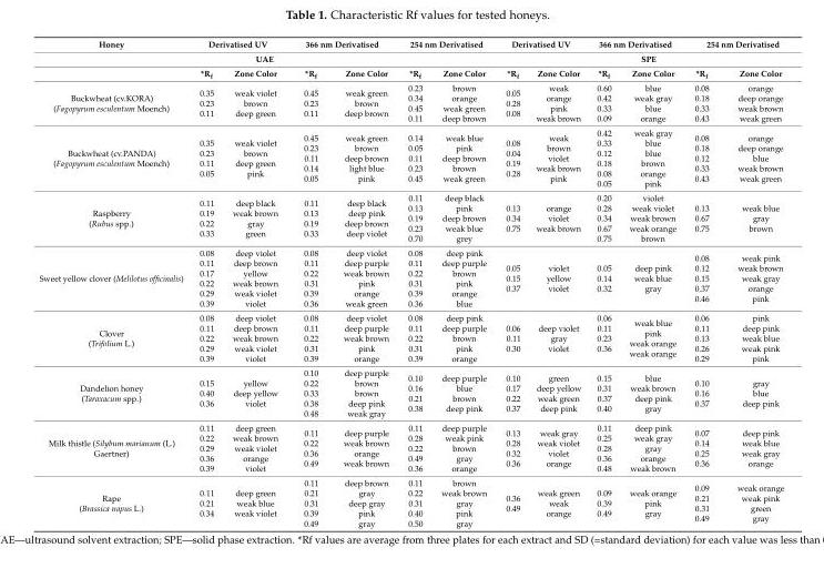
<table><thead><tr><td>Honey</td><td colspan="2">Derivatised UV</td><td colspan="2">366 nm Derivatised</td><td colspan="2">254 nm Derivatised</td><td colspan="2">Derivatised UV</td><td colspan="2">366 nm Derivatised</td><td colspan="2">254 nm Derivatised</td></tr><tr><td colspan="7">UAE</td><td colspan="6">SPE</td></tr><tr><td></td><td>*R<sub>f</sub></td><td>Zone Color</td><td>*R<sub>f</sub></td><td>Zone Color</td><td>*R<sub>f</sub></td><td>Zone Color</td><td>*R<sub>f</sub></td><td>Zone Color</td><td>*R<sub>f</sub></td><td>Zone Color</td><td>*R<sub>f</sub></td><td>Zone Color</td></tr></thead><tbody><tr><td>Buckwheat (cv.KORA) (Fagopyrum esculentum Moench)</td><td>0.35 0.23 0.11</td><td>weak violet brown deep green</td><td>0.45 0.23 0.11</td><td>weak green brown deep brown</td><td>0.23 0.34 0.45 0.11</td><td>brown orange weak green deep brown</td><td>0.05 0.28 0.08</td><td>weak orange pink weak brown</td><td>0.60 0.42 0.33 0.09</td><td>blue weak gray blue orange</td><td>0.08 0.18 0.33 0.43</td><td>orange deep orange weak brown weak green</td></tr><tr><td>Buckwheat (cv.PANDA) (Fagopyrum esculentum Moench)</td><td>0.35 0.23 0.11 0.05</td><td>weak violet brown deep green pink</td><td>0.45 0.23 0.11 0.14 0.05</td><td>weak green brown deep brown light blue pink</td><td>0.14 0.05 0.11 0.23 0.45</td><td>weak blue pink deep brown brown weak green</td><td>0.08 0.04 0.19 0.28</td><td>weak brown violet weak brown pink</td><td>0.42 0.33 0.12 0.18 0.08 0.05</td><td>weak gray blue blue brown orange pink</td><td>0.08 0.18 0.12 0.33 0.43</td><td>orange deep orange blue weak brown weak green</td></tr><tr><td>Raspberry (Rubus spp.)</td><td>0.11 0.19 0.22 0.33</td><td>deep black weak brown gray green</td><td>0.11 0.13 0.19 0.33</td><td>deep black deep pink deep brown deep violet</td><td>0.11 0.13 0.19 0.23 0.70</td><td>deep black pink deep brown weak blue grey</td><td>0.13 0.34 0.75</td><td>orange violet weak brown</td><td>0.20 0.28 0.34 0.67 0.75</td><td>violet weak violet weak brown weak orange brown</td><td>0.13 0.67 0.75</td><td>weak blue gray brown</td></tr><tr><td>Sweet yellow clover (Melilotus officinalis)</td><td>0.08 0.11 0.17 0.22 0.29 0.39</td><td>deep violet deep brown yellow weak brown weak violet violet</td><td>0.08 0.11 0.22 0.31 0.39 0.36</td><td>deep violet deep purple weak brown pink orange weak green</td><td>0.08 0.11 0.22 0.31 0.39 0.36</td><td>deep pink deep purple brown pink orange blue</td><td>0.05 0.15 0.37</td><td>violet yellow violet</td><td>0.05 0.14 0.32</td><td>deep pink weak blue gray</td><td>0.08 0.12 0.15 0.37 0.46</td><td>weak pink weak brown weak gray orange pink</td></tr><tr><td>Clover (Trifolium L.)</td><td>0.08 0.11 0.22 0.29 0.39</td><td>deep violet deep brown weak brown weak violet violet</td><td>0.08 0.11 0.22 0.31 0.39</td><td>deep violet deep purple weak brown pink orange</td><td>0.08 0.11 0.22 0.31 0.39</td><td>deep pink deep purple brown pink orange</td><td>0.06 0.11 0.30</td><td>deep violet gray violet</td><td>0.06 0.11 0.23 0.36</td><td>weak blue pink weak orange weak orange</td><td>0.06 0.11 0.13 0.26 0.29</td><td>pink deep pink weak blue weak pink pink</td></tr><tr><td>Dandelion honey (Taraxacum spp.)</td><td>0.15 0.40 0.36</td><td>yellow deep yellow violet</td><td>0.10 0.22 0.33 0.38 0.48</td><td>deep purple brown brown deep pink weak gray</td><td>0.10 0.16 0.21 0.38</td><td>deep purple blue brown deep pink</td><td>0.10 0.17 0.22 0.37</td><td>green deep yellow weak green deep pink</td><td>0.15 0.31 0.37 0.40</td><td>blue weak brown deep pink gray</td><td>0.10 0.16 0.37</td><td>gray blue deep pink</td></tr><tr><td>Milk thistle (Silybum marianum (L.) Gaertner)</td><td>0.11 0.22 0.29 0.36 0.39</td><td>deep green weak brown weak violet orange violet</td><td>0.11 0.22 0.36 0.49</td><td>deep purple weak brown orange weak brown</td><td>0.11 0.28 0.22 0.49 0.36</td><td>deep purple weak pink brown gray orange</td><td>0.13 0.28 0.32 0.36</td><td>weak gray weak violet violet orange</td><td>0.11 0.25 0.28 0.36 0.48</td><td>deep pink weak gray gray orange weak brown</td><td>0.07 0.14 0.25 0.36</td><td>deep pink weak blue weak gray orange</td></tr><tr><td>Rape (Brassica napus L.)</td><td>0.11 0.21 0.34</td><td>deep green weak blue weak violet</td><td>0.11 0.21 0.31 0.39 0.49</td><td>deep brown gray deep gray pink gray</td><td>0.11 0.22 0.31 0.40 0.50</td><td>brown weak brown gray pink gray</td><td>0.36 0.49</td><td>weak green weak orange</td><td>0.09 0.39 0.49</td><td>weak orange pink gray</td><td>0.09 0.21 0.31 0.49</td><td>weak orange weak pink green gray</td></tr></tbody></table>